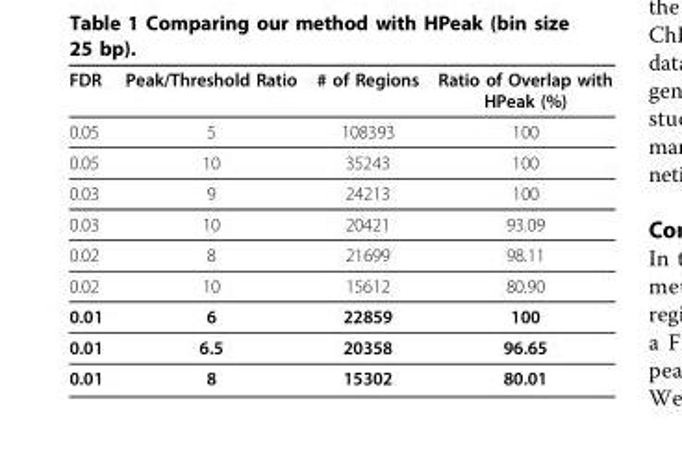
<table><thead><tr><td>FDR</td><td>Peak/Threshold Ratio</td><td># of Regions</td><td>Ratio of Overlap with HPeak (%)</td></tr></thead><tbody><tr><td>0.05</td><td>5</td><td>108393</td><td>100</td></tr><tr><td>0.05</td><td>10</td><td>35243</td><td>100</td></tr><tr><td>0.03</td><td>9</td><td>24213</td><td>100</td></tr><tr><td>0.03</td><td>10</td><td>20421</td><td>93.09</td></tr><tr><td>0.02</td><td>8</td><td>21699</td><td>98.11</td></tr><tr><td>0.02</td><td>10</td><td>15612</td><td>80.90</td></tr><tr><td>0.01</td><td>6</td><td>22859</td><td>100</td></tr><tr><td>0.01</td><td>6.5</td><td>20358</td><td>96.65</td></tr><tr><td>0.01</td><td>8</td><td>15302</td><td>80.01</td></tr></tbody></table>